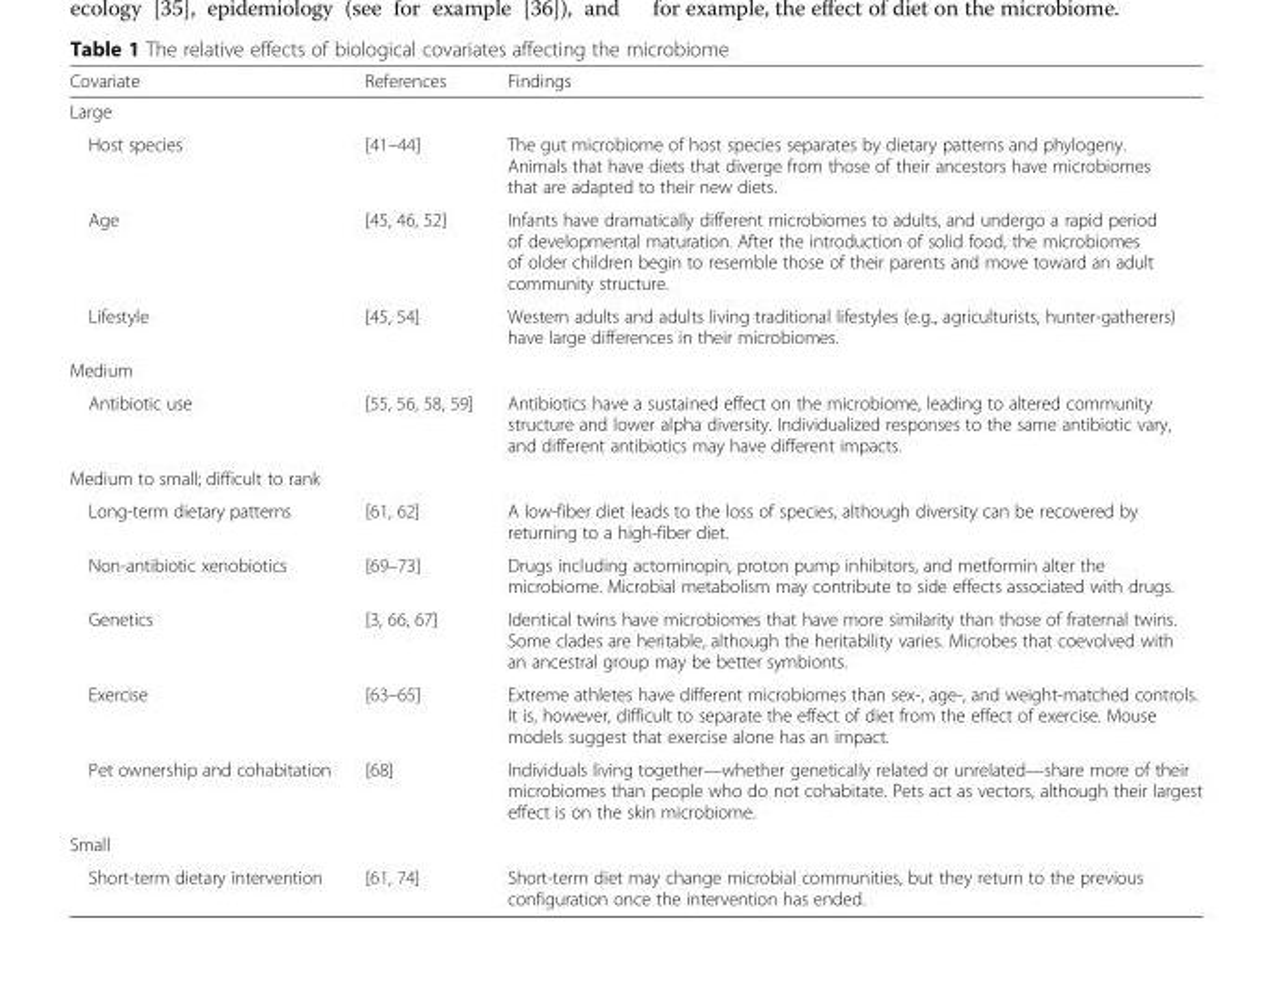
<table><thead><tr><td>Covariate</td><td>References</td><td>Findings</td></tr></thead><tbody><tr><td colspan="3">Large</td></tr><tr><td>Host species</td><td>[41–44]</td><td>The gut microbiome of host species separates by dietary patterns and phylogeny. Animals that have diets that diverge from those of their ancestors have microbiomes that are adapted to their new diets.</td></tr><tr><td>Age</td><td>[45, 46, 52]</td><td>Infants have dramatically different microbiomes to adults, and undergo a rapid period of developmental maturation. After the introduction of solid food, the microbiomes of older children begin to resemble those of their parents and move toward an adult community structure.</td></tr><tr><td>Lifestyle</td><td>[45, 54]</td><td>Western adults and adults living traditional lifestyles (e.g., agriculturists, hunter-gatherers) have large differences in their microbiomes.</td></tr><tr><td colspan="3">Medium</td></tr><tr><td>Antibiotic use</td><td>[55, 56, 58, 59]</td><td>Antibiotics have a sustained effect on the microbiome, leading to altered community structure and lower alpha diversity. Individualized responses to the same antibiotic vary, and different antibiotics may have different impacts.</td></tr><tr><td colspan="3">Medium to small; difficult to rank</td></tr><tr><td>Long-term dietary patterns</td><td>[61, 62]</td><td>A low-fiber diet leads to the loss of species, although diversity can be recovered by returning to a high-fiber diet.</td></tr><tr><td>Non-antibiotic xenobiotics</td><td>[69–73]</td><td>Drugs including actominopin, proton pump inhibitors, and metformin alter the microbiome. Microbial metabolism may contribute to side effects associated with drugs.</td></tr><tr><td>Genetics</td><td>[3, 66, 67]</td><td>Identical twins have microbiomes that have more similarity than those of fraternal twins. Some clades are heritable, although the heritability varies. Microbes that coevolved with an ancestral group may be better symbionts.</td></tr><tr><td>Exercise</td><td>[63–65]</td><td>Extreme athletes have different microbiomes than sex-, age-, and weight-matched controls. It is, however, difficult to separate the effect of diet from the effect of exercise. Mouse models suggest that exercise alone has an impact.</td></tr><tr><td>Pet ownership and cohabitation</td><td>[68]</td><td>Individuals living together—whether genetically related or unrelated—share more of their microbiomes than people who do not cohabitate. Pets act as vectors, although their largest effect is on the skin microbiome.</td></tr><tr><td colspan="3">Small</td></tr><tr><td>Short-term dietary intervention</td><td>[61, 74]</td><td>Short-term diet may change microbial communities, but they return to the previous configuration once the intervention has ended.</td></tr></tbody></table>